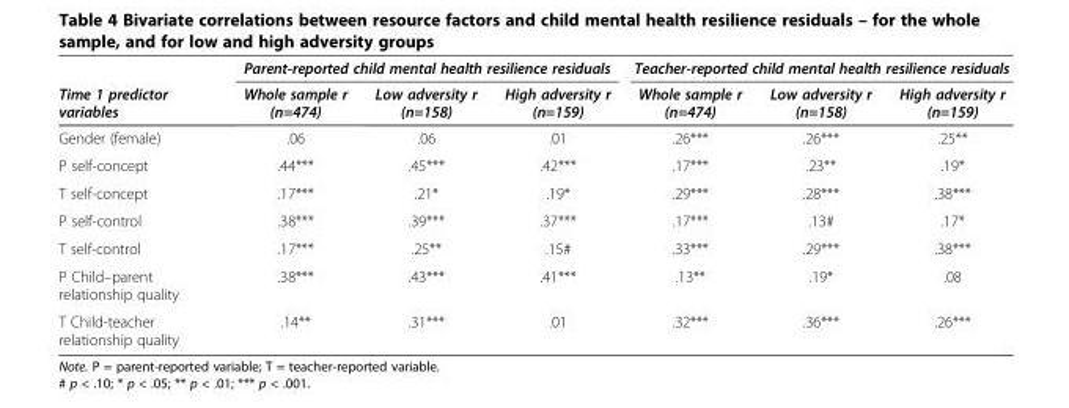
<table><thead><tr><td rowspan="2">Time 1 predictor variables</td><td colspan="3">Parent-reported child mental health resilience residuals</td><td colspan="3">Teacher-reported child mental health resilience residuals</td></tr><tr><td>Whole sample r (n=474)</td><td>Low adversity r (n=158)</td><td>High adversity r (n=159)</td><td>Whole sample r (n=474)</td><td>Low adversity r (n=158)</td><td>High adversity r (n=159)</td></tr></thead><tbody><tr><td>Gender (female)</td><td>.06</td><td>.06</td><td>.01</td><td>.26***</td><td>.26***</td><td>.25**</td></tr><tr><td>P self-concept</td><td>.44***</td><td>.45***</td><td>.42***</td><td>.17***</td><td>.23**</td><td>.19*</td></tr><tr><td>T self-concept</td><td>.17***</td><td>.21*</td><td>.19*</td><td>.29***</td><td>.28***</td><td>.38***</td></tr><tr><td>P self-control</td><td>.38***</td><td>.39***</td><td>.37***</td><td>.17***</td><td>.13#</td><td>.17*</td></tr><tr><td>T self-control</td><td>.17***</td><td>.25**</td><td>.15#</td><td>.33***</td><td>.29***</td><td>.38***</td></tr><tr><td>P Child–parent relationship quality</td><td>.38***</td><td>.43***</td><td>.41***</td><td>.13**</td><td>.19*</td><td>.08</td></tr><tr><td>T Child-teacher relationship quality</td><td>.14**</td><td>.31***</td><td>.01</td><td>.32***</td><td>.36***</td><td>.26***</td></tr></tbody></table>